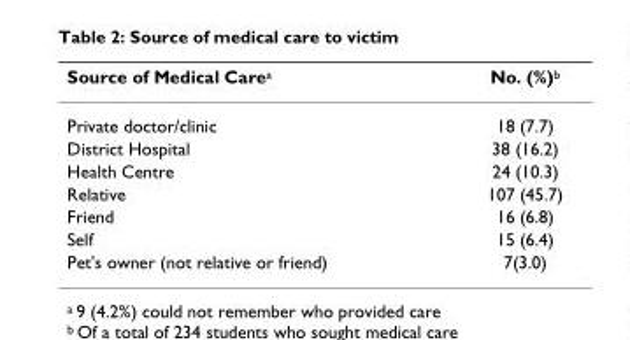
<table><thead><tr><td>Source of Medical Care<sup>a</sup></td><td>No. (%)<sup>b</sup></td></tr></thead><tbody><tr><td>Private doctor/clinic</td><td>18 (7.7)</td></tr><tr><td>District Hospital</td><td>38 (16.2)</td></tr><tr><td>Health Centre</td><td>24 (10.3)</td></tr><tr><td>Relative</td><td>107 (45.7)</td></tr><tr><td>Friend</td><td>16 (6.8)</td></tr><tr><td>Self</td><td>15 (6.4)</td></tr><tr><td>Pet&#x27;s owner (not relative or friend)</td><td>7(3.0)</td></tr></tbody></table>